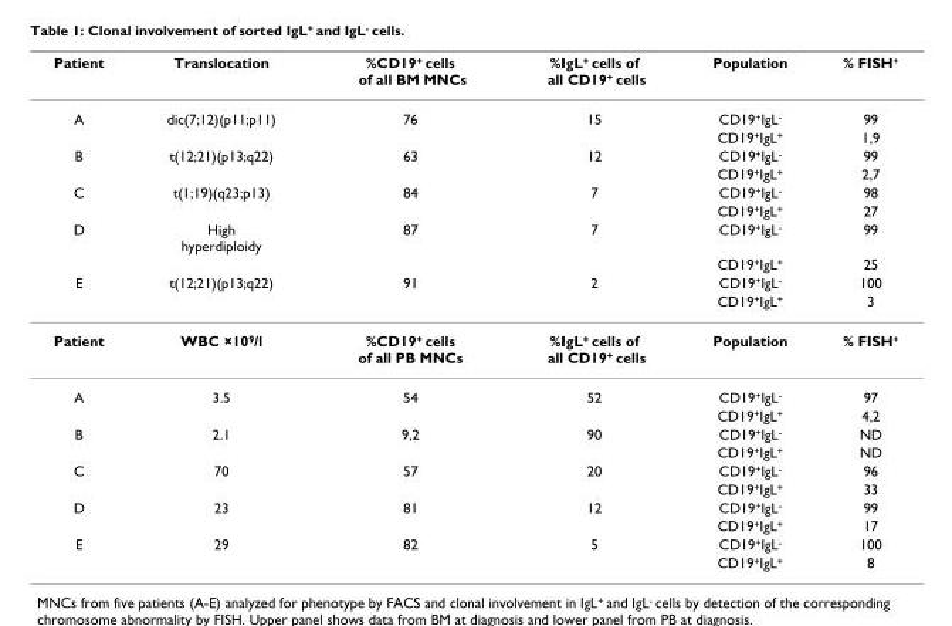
<table><thead><tr><td>Patient</td><td>Translocation</td><td>%CD19<sup>+</sup> cells of all BM MNCs</td><td>%IgL<sup>+</sup> cells of all CD19<sup>+</sup> cells</td><td>Population</td><td>% FISH<sup>+</sup></td></tr></thead><tbody><tr><td rowspan="2">A</td><td>dic(7;12)(p11;p11)</td><td>76</td><td>15</td><td>CD19<sup>+</sup>IgL<sup>-</sup></td><td>99</td></tr><tr><td></td><td></td><td></td><td>CD19<sup>+</sup>IgL<sup>+</sup></td><td>1,9</td></tr><tr><td rowspan="2">B</td><td>t(12;21)(p13;q22)</td><td>63</td><td>12</td><td>CD19<sup>+</sup>IgL<sup>-</sup></td><td>99</td></tr><tr><td></td><td></td><td></td><td>CD19<sup>+</sup>IgL<sup>+</sup></td><td>2,7</td></tr><tr><td rowspan="2">C</td><td>t(1;19)(q23;p13)</td><td>84</td><td>7</td><td>CD19<sup>+</sup>IgL<sup>-</sup></td><td>98</td></tr><tr><td></td><td></td><td></td><td>CD19<sup>+</sup>IgL<sup>+</sup></td><td>27</td></tr><tr><td rowspan="2">D</td><td>High hyperdiploidy</td><td>87</td><td>7</td><td>CD19<sup>+</sup>IgL<sup>-</sup></td><td>99</td></tr><tr><td></td><td></td><td></td><td>CD19<sup>+</sup>IgL<sup>+</sup></td><td>25</td></tr><tr><td rowspan="2">E</td><td>t(12;21)(p13;q22)</td><td>91</td><td>2</td><td>CD19<sup>+</sup>IgL<sup>-</sup></td><td>100</td></tr><tr><td></td><td></td><td></td><td>CD19<sup>+</sup>IgL<sup>+</sup></td><td>3</td></tr><tr><td>Patient</td><td>WBC ×10<sup>9</sup>/l</td><td>%CD19<sup>+</sup> cells of all PB MNCs</td><td>%IgL<sup>+</sup> cells of all CD19<sup>+</sup> cells</td><td>Population</td><td>% FISH<sup>+</sup></td></tr><tr><td rowspan="2">A</td><td>3.5</td><td>54</td><td>52</td><td>CD19<sup>+</sup>IgL<sup>-</sup></td><td>97</td></tr><tr><td></td><td></td><td></td><td>CD19<sup>+</sup>IgL<sup>+</sup></td><td>4,2</td></tr><tr><td rowspan="2">B</td><td>2.1</td><td>9,2</td><td>90</td><td>CD19<sup>+</sup>IgL<sup>-</sup></td><td>ND</td></tr><tr><td></td><td></td><td></td><td>CD19<sup>+</sup>IgL<sup>+</sup></td><td>ND</td></tr><tr><td rowspan="2">C</td><td>70</td><td>57</td><td>20</td><td>CD19<sup>+</sup>IgL<sup>-</sup></td><td>96</td></tr><tr><td></td><td></td><td></td><td>CD19<sup>+</sup>IgL<sup>+</sup></td><td>33</td></tr><tr><td rowspan="2">D</td><td>23</td><td>81</td><td>12</td><td>CD19<sup>+</sup>IgL<sup>-</sup></td><td>99</td></tr><tr><td></td><td></td><td></td><td>CD19<sup>+</sup>IgL<sup>+</sup></td><td>17</td></tr><tr><td rowspan="2">E</td><td>29</td><td>82</td><td>5</td><td>CD19<sup>+</sup>IgL<sup>-</sup></td><td>100</td></tr><tr><td></td><td></td><td></td><td>CD19<sup>+</sup>IgL<sup>+</sup></td><td>8</td></tr></tbody></table>